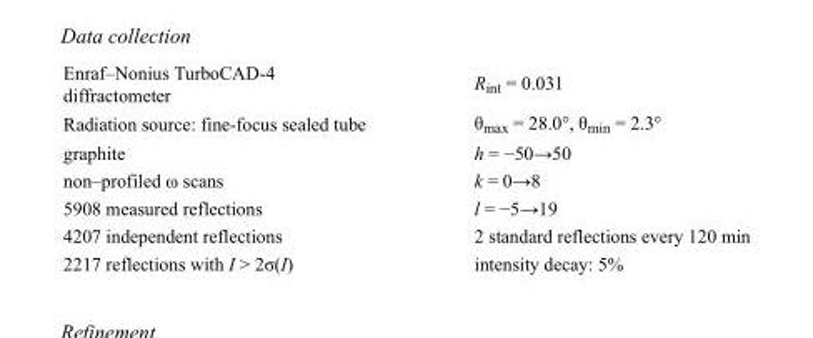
<table><tbody><tr><td>Enraf–Nonius TurboCAD-4 diffractometer</td><td>R<sub>int</sub> = 0.031</td></tr><tr><td>Radiation source: fine-focus sealed tube</td><td>θ<sub>max</sub> = 28.0°, θ<sub>min</sub> = 2.3°</td></tr><tr><td>graphite</td><td>h = −50→50</td></tr><tr><td>non–profiled ω scans</td><td>k = 0→8</td></tr><tr><td>5908 measured reflections</td><td>l = −5→19</td></tr><tr><td>4207 independent reflections</td><td>2 standard reflections every 120 min</td></tr><tr><td>2217 reflections with I &gt; 2σ(I)</td><td>intensity decay: 5%</td></tr></tbody></table>